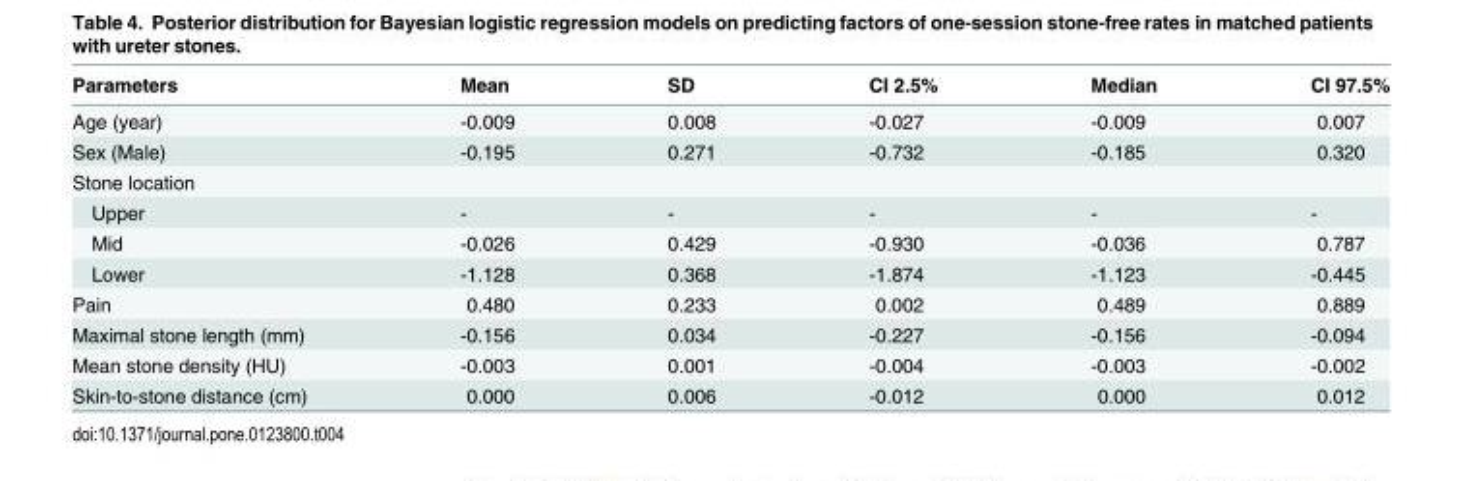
<table><thead><tr><td>Parameters</td><td>Mean</td><td>SD</td><td>CI 2.5%</td><td>Median</td><td>CI 97.5%</td></tr></thead><tbody><tr><td>Age (year)</td><td>-0.009</td><td>0.008</td><td>-0.027</td><td>-0.009</td><td>0.007</td></tr><tr><td>Sex (Male)</td><td>-0.195</td><td>0.271</td><td>-0.732</td><td>-0.185</td><td>0.320</td></tr><tr><td colspan="6">Stone location</td></tr><tr><td>Upper</td><td>-</td><td>-</td><td>-</td><td>-</td><td>-</td></tr><tr><td>Mid</td><td>-0.026</td><td>0.429</td><td>-0.930</td><td>-0.036</td><td>0.787</td></tr><tr><td>Lower</td><td>-1.128</td><td>0.368</td><td>-1.874</td><td>-1.123</td><td>-0.445</td></tr><tr><td>Pain</td><td>0.480</td><td>0.233</td><td>0.002</td><td>0.489</td><td>0.889</td></tr><tr><td>Maximal stone length (mm)</td><td>-0.156</td><td>0.034</td><td>-0.227</td><td>-0.156</td><td>-0.094</td></tr><tr><td>Mean stone density (HU)</td><td>-0.003</td><td>0.001</td><td>-0.004</td><td>-0.003</td><td>-0.002</td></tr><tr><td>Skin-to-stone distance (cm)</td><td>0.000</td><td>0.006</td><td>-0.012</td><td>0.000</td><td>0.012</td></tr></tbody></table>